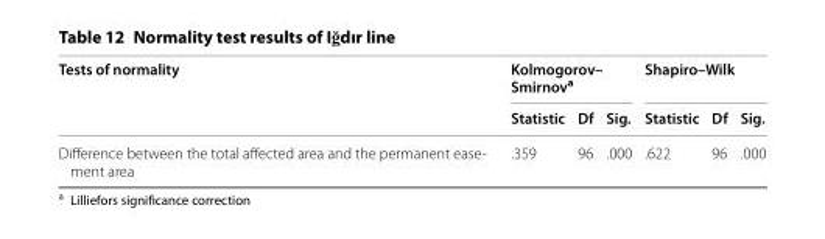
<table><thead><tr><td rowspan="2">Tests of normality</td><td colspan="3">Kolmogorov– Smirnov<sup>a</sup></td><td colspan="3">Shapiro–Wilk</td></tr><tr><td>Statistic</td><td>Df</td><td>Sig.</td><td>Statistic</td><td>Df</td><td>Sig.</td></tr></thead><tbody><tr><td>Difference between the total affected area and the permanent ease- ment area</td><td>.359</td><td>96</td><td>.000</td><td>.622</td><td>96</td><td>.000</td></tr></tbody></table>